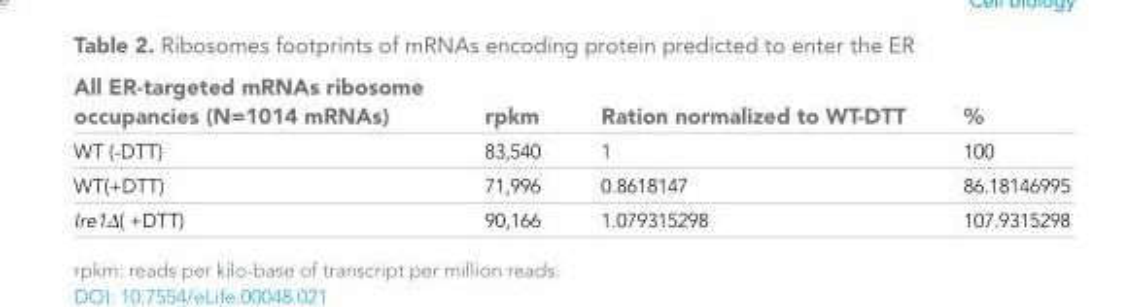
<table><thead><tr><td>All ER-targeted mRNAs ribosome occupancies (N=1014 mRNAs)</td><td>rpkm</td><td>Ration normalized to WT-DTT</td><td>%</td></tr></thead><tbody><tr><td>WT (-DTT)</td><td>83,540</td><td>1</td><td>100</td></tr><tr><td>WT(+DTT)</td><td>71,996</td><td>0.8618147</td><td>86.18146995</td></tr><tr><td>Ire1∆( +DTT)</td><td>90,166</td><td>1.079315298</td><td>107.9315298</td></tr></tbody></table>